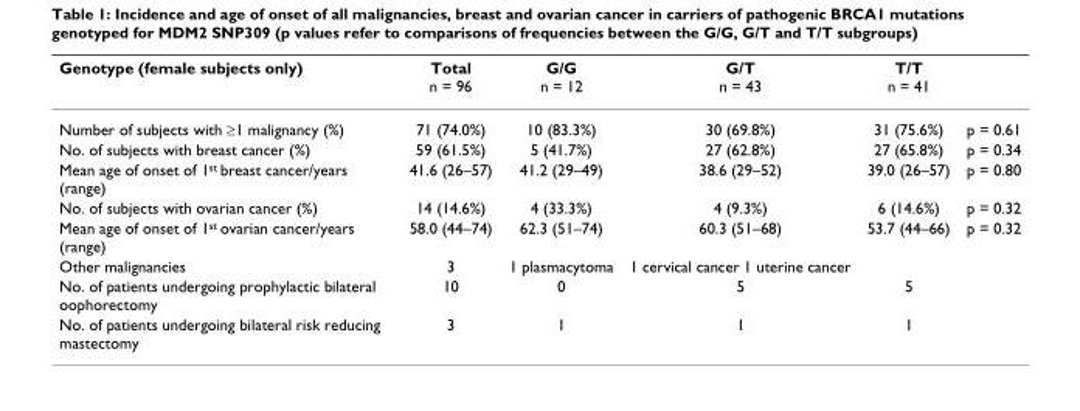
<table><thead><tr><td>Genotype (female subjects only)</td><td>Total n = 96</td><td>G/G n = 12</td><td>G/T n = 43</td><td>T/T n = 41</td><td></td></tr></thead><tbody><tr><td>Number of subjects with ≥1 malignancy (%)</td><td>71 (74.0%)</td><td>10 (83.3%)</td><td>30 (69.8%)</td><td>31 (75.6%)</td><td>p = 0.61</td></tr><tr><td>No. of subjects with breast cancer (%)</td><td>59 (61.5%)</td><td>5 (41.7%)</td><td>27 (62.8%)</td><td>27 (65.8%)</td><td>p = 0.34</td></tr><tr><td>Mean age of onset of 1st breast cancer/years (range)</td><td>41.6 (26–57)</td><td>41.2 (29–49)</td><td>38.6 (29–52)</td><td>39.0 (26–57)</td><td>p = 0.80</td></tr><tr><td>No. of subjects with ovarian cancer (%)</td><td>14 (14.6%)</td><td>4 (33.3%)</td><td>4 (9.3%)</td><td>6 (14.6%)</td><td>p = 0.32</td></tr><tr><td>Mean age of onset of 1st ovarian cancer/years (range)</td><td>58.0 (44–74)</td><td>62.3 (51–74)</td><td>60.3 (51–68)</td><td>53.7 (44–66)</td><td>p = 0.32</td></tr><tr><td>Other malignancies</td><td>3</td><td>1 plasmacytoma</td><td>1 cervical cancer 1 uterine cancer</td><td></td><td></td></tr><tr><td>No. of patients undergoing prophylactic bilateral oophorectomy</td><td>10</td><td>0</td><td>5</td><td>5</td><td></td></tr><tr><td>No. of patients undergoing bilateral risk reducing mastectomy</td><td>3</td><td>1</td><td>1</td><td>1</td><td></td></tr></tbody></table>